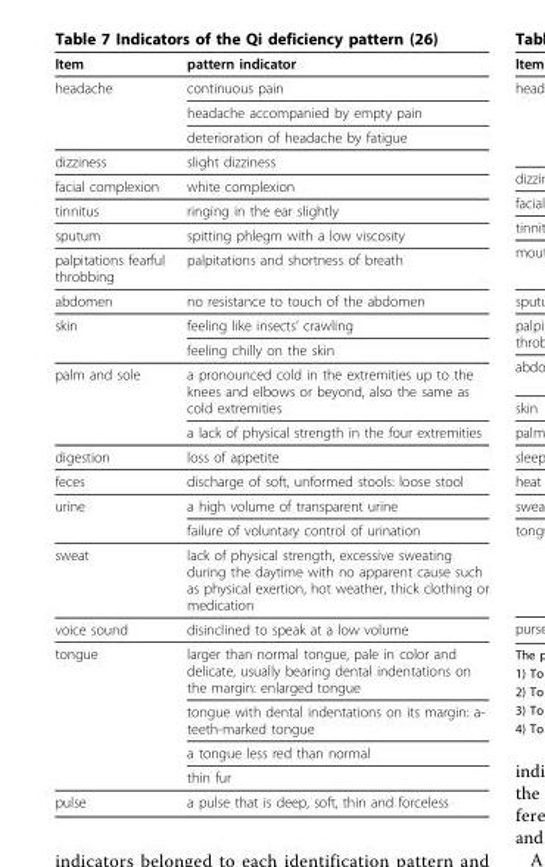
<table><thead><tr><td>Item</td><td>pattern indicator</td></tr></thead><tbody><tr><td rowspan="3">headache</td><td>continuous pain</td></tr><tr><td>headache accompanied by empty pain</td></tr><tr><td>deterioration of headache by fatigue</td></tr><tr><td>dizziness</td><td>slight dizziness</td></tr><tr><td>facial complexion</td><td>white complexion</td></tr><tr><td>tinnitus</td><td>ringing in the ear slightly</td></tr><tr><td>sputum</td><td>spitting phlegm with a low viscosity</td></tr><tr><td>palpitations fearful throbbing</td><td>palpitations and shortness of breath</td></tr><tr><td>abdomen</td><td>no resistance to touch of the abdomen</td></tr><tr><td rowspan="2">skin</td><td>feeling like insects’ crawling</td></tr><tr><td>feeling chilly on the skin</td></tr><tr><td rowspan="2">palm and sole</td><td>a pronounced cold in the extremities up to the knees and elbows or beyond, also the same as cold extremities</td></tr><tr><td>a lack of physical strength in the four extremities</td></tr><tr><td>digestion</td><td>loss of appetite</td></tr><tr><td>feces</td><td>discharge of soft, unformed stools: loose stool</td></tr><tr><td rowspan="2">urine</td><td>a high volume of transparent urine</td></tr><tr><td>failure of voluntary control of urination</td></tr><tr><td>sweat</td><td>lack of physical strength, excessive sweating during the daytime with no apparent cause such as physical exertion, hot weather, thick clothing or medication</td></tr><tr><td>voice sound</td><td>disinclined to speak at a low volume</td></tr><tr><td rowspan="4">tongue</td><td>larger than normal tongue, pale in color and delicate, usually bearing dental indentations on the margin: enlarged tongue</td></tr><tr><td>tongue with dental indentations on its margin: a- teeth-marked tongue</td></tr><tr><td>a tongue less red than normal</td></tr><tr><td>thin fur</td></tr><tr><td>pulse</td><td>a pulse that is deep, soft, thin and forceless</td></tr></tbody></table>